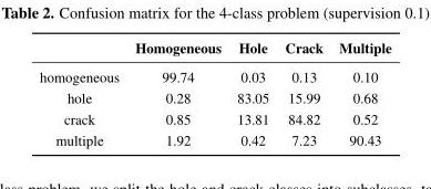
<table><thead><tr><td></td><td>Homogeneous</td><td>Hole</td><td>Crack</td><td>Multiple</td></tr></thead><tbody><tr><td>homogeneous</td><td>99.74</td><td>0.03</td><td>0.13</td><td>0.10</td></tr><tr><td>hole</td><td>0.28</td><td>83.05</td><td>15.99</td><td>0.68</td></tr><tr><td>crack</td><td>0.85</td><td>13.81</td><td>84.82</td><td>0.52</td></tr><tr><td>multiple</td><td>1.92</td><td>0.42</td><td>7.23</td><td>90.43</td></tr></tbody></table>